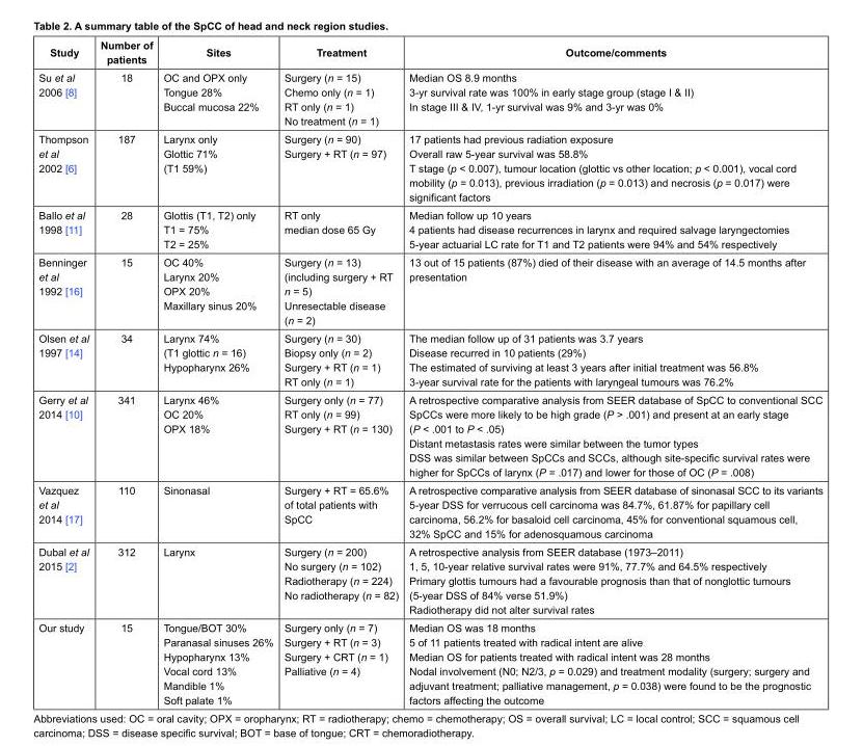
<table><thead><tr><td>Study</td><td>Number of patients</td><td>Sites</td><td>Treatment</td><td>Outcome/comments</td></tr></thead><tbody><tr><td>Su et al 2006 [8]</td><td>18</td><td>OC and OPX only Tongue 28% Buccal mucosa 22%</td><td>Surgery (n = 15) Chemo only (n = 1) RT only (n = 1) No treatment (n = 1)</td><td>Median OS 8.9 months 3-yr survival rate was 100% in early stage group (stage I &amp; II) In stage III &amp; IV, 1-yr survival was 9% and 3-yr was 0%</td></tr><tr><td>Thompson et al 2002 [6]</td><td>187</td><td>Larynx only Glottic 71% (T1 59%)</td><td>Surgery (n = 90) Surgery + RT (n = 97)</td><td>17 patients had previous radiation exposure Overall raw 5-year survival was 58.8% T stage (p &lt; 0.007), tumour location (glottic vs other location; p &lt; 0.001), vocal cord mobility (p = 0.013), previous irradiation (p = 0.013) and necrosis (p = 0.017) were significant factors</td></tr><tr><td>Ballo et al 1998 [11]</td><td>28</td><td>Glottis (T1, T2) only T1 = 75% T2 = 25%</td><td>RT only median dose 65 Gy</td><td>Median follow up 10 years 4 patients had disease recurrences in larynx and required salvage laryngectomies 5-year actuarial LC rate for T1 and T2 patients were 94% and 54% respectively</td></tr><tr><td>Benninger et al 1992 [16]</td><td>15</td><td>OC 40% Larynx 20% OPX 20% Maxillary sinus 20%</td><td>Surgery (n = 13) (including surgery + RT n = 5) Unresectable disease (n = 2)</td><td>13 out of 15 patients (87%) died of their disease with an average of 14.5 months after presentation</td></tr><tr><td>Olsen et al 1997 [14]</td><td>34</td><td>Larynx 74% (T1 glottic n = 16) Hypopharynx 26%</td><td>Surgery (n = 30) Biopsy only (n = 2) Surgery + RT (n = 1) RT only (n = 1)</td><td>The median follow up of 31 patients was 3.7 years Disease recurred in 10 patients (29%) The estimated of surviving at least 3 years after initial treatment was 56.8% 3-year survival rate for the patients with laryngeal tumours was 76.2%</td></tr><tr><td>Gerry et al 2014 [10]</td><td>341</td><td>Larynx 46% OC 20% OPX 18%</td><td>Surgery only (n = 77) RT only (n = 99) Surgery + RT (n = 130)</td><td>A retrospective comparative analysis from SEER database of SpCC to conventional SCC SpCCs were more likely to be high grade (P &gt; .001) and present at an early stage (P &lt; .001 to P &lt; .05) Distant metastasis rates were similar between the tumor types DSS was similar between SpCCs and SCCs, although site-specific survival rates were higher for SpCCs of larynx (P = .017) and lower for those of OC (P = .008)</td></tr><tr><td>Vazquez et al 2014 [17]</td><td>110</td><td>Sinonasal</td><td>Surgery + RT = 65.6% of total patients with SpCC</td><td>A retrospective comparative analysis from SEER database of sinonasal SCC to its variants 5-year DSS for verrucous cell carcinoma was 84.7%, 61.87% for papillary cell carcinoma, 56.2% for basaloid cell carcinoma, 45% for conventional squamous cell, 32% SpCC and 15% for adenosquamous carcinoma</td></tr><tr><td>Dubal et al 2015 [2]</td><td>312</td><td>Larynx</td><td>Surgery (n = 200) No surgery (n = 102) Radiotherapy (n = 224) No radiotherapy (n = 82)</td><td>A retrospective analysis from SEER database (1973–2011) 1, 5, 10-year relative survival rates were 91%, 77.7% and 64.5% respectively Primary glottis tumours had a favourable prognosis than that of nonglottic tumours (5-year DSS of 84% verse 51.9%) Radiotherapy did not alter survival rates</td></tr><tr><td>Our study</td><td>15</td><td>Tongue/BOT 30% Paranasal sinuses 26% Hypopharynx 13% Vocal cord 13% Mandible 1% Soft palate 1%</td><td>Surgery only (n = 7) Surgery + RT (n = 3) Surgery + CRT (n = 1) Palliative (n = 4)</td><td>Median OS was 18 months 5 of 11 patients treated with radical intent are alive Median OS for patients treated with radical intent was 28 months Nodal involvement (N0; N2/3, p = 0.029) and treatment modality (surgery; surgery and adjuvant treatment; palliative management, p = 0.038) were found to be the prognostic factors affecting the outcome</td></tr></tbody></table>